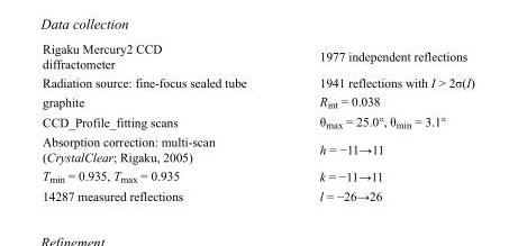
<table><tbody><tr><td>Rigaku Mercury2 CCD diffractometer</td><td>1977 independent reflections</td></tr><tr><td>Radiation source: fine-focus sealed tube</td><td>1941 reflections with I &gt; 2σ(I)</td></tr><tr><td>graphite</td><td>R<sub>int</sub> = 0.038</td></tr><tr><td>CCD_Profile_fitting scans</td><td>θ<sub>max</sub> = 25.0°, θ<sub>min</sub> = 3.1°</td></tr><tr><td>Absorption correction: multi-scan (CrystalClear; Rigaku, 2005)</td><td>h = −11→11</td></tr><tr><td>T<sub>min</sub> = 0.935, T<sub>max</sub> = 0.935</td><td>k = −11→11</td></tr><tr><td>14287 measured reflections</td><td>l = −26→26</td></tr></tbody></table>